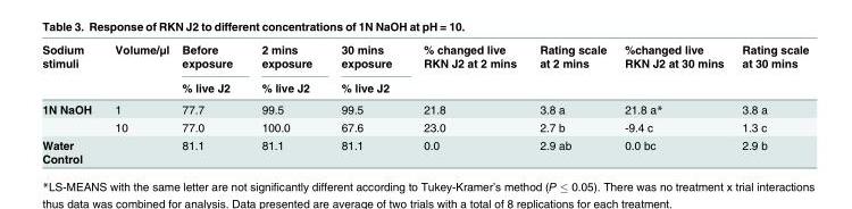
<table><thead><tr><td rowspan="2">Sodium stimuli</td><td rowspan="2">Volume/μl</td><td rowspan="2">Before exposure % live J2</td><td rowspan="2">2 mins exposure % live J2</td><td rowspan="2">30 mins exposure % live J2</td><td rowspan="2">% changed live RKN J2 at 2 mins</td><td rowspan="2">Rating scale at 2 mins</td><td rowspan="2">%changed live RKN J2 at 30 mins</td><td rowspan="2">Rating scale at 30 mins</td></tr><tr></tr></thead><tbody><tr><td rowspan="2">1N NaOH</td><td>1</td><td>77.7</td><td>99.5</td><td>99.5</td><td>21.8</td><td>3.8 a</td><td>21.8 a*</td><td>3.8 a</td></tr><tr><td>10</td><td>77.0</td><td>100.0</td><td>67.6</td><td>23.0</td><td>2.7 b</td><td>-9.4 c</td><td>1.3 c</td></tr><tr><td>Water Control</td><td></td><td>81.1</td><td>81.1</td><td>81.1</td><td>0.0</td><td>2.9 ab</td><td>0.0 bc</td><td>2.9 b</td></tr></tbody></table>